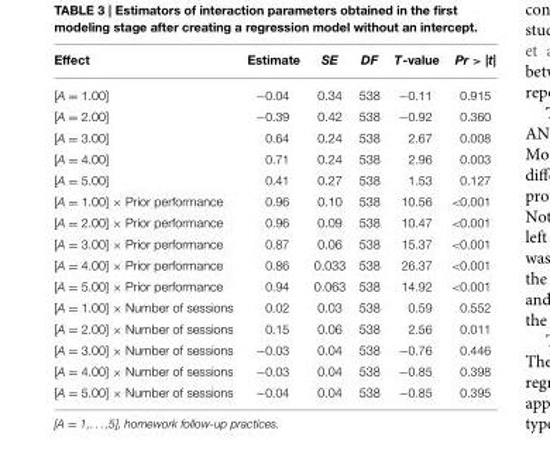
<table><thead><tr><td>Effect</td><td>Estimate</td><td>SE</td><td>DF</td><td>T-value</td><td>Pr &gt; |t|</td></tr></thead><tbody><tr><td>[A = 1.00]</td><td>−0.04</td><td>0.34</td><td>538</td><td>−0.11</td><td>0.915</td></tr><tr><td>[A = 2.00]</td><td>−0.39</td><td>0.42</td><td>538</td><td>−0.92</td><td>0.360</td></tr><tr><td>[A = 3.00]</td><td>0.64</td><td>0.24</td><td>538</td><td>2.67</td><td>0.008</td></tr><tr><td>[A = 4.00]</td><td>0.71</td><td>0.24</td><td>538</td><td>2.96</td><td>0.003</td></tr><tr><td>[A = 5.00]</td><td>0.41</td><td>0.27</td><td>538</td><td>1.53</td><td>0.127</td></tr><tr><td>[A = 1.00] × Prior performance</td><td>0.96</td><td>0.10</td><td>538</td><td>10.56</td><td>&lt;0.001</td></tr><tr><td>[A = 2.00] × Prior performance</td><td>0.96</td><td>0.09</td><td>538</td><td>10.47</td><td>&lt;0.001</td></tr><tr><td>[A = 3.00] × Prior performance</td><td>0.87</td><td>0.06</td><td>538</td><td>15.37</td><td>&lt;0.001</td></tr><tr><td>[A = 4.00] × Prior performance</td><td>0.86</td><td>0.033</td><td>538</td><td>26.37</td><td>&lt;0.001</td></tr><tr><td>[A = 5.00] × Prior performance</td><td>0.94</td><td>0.063</td><td>538</td><td>14.92</td><td>&lt;0.001</td></tr><tr><td>[A = 1.00] × Number of sessions</td><td>0.02</td><td>0.03</td><td>538</td><td>0.59</td><td>0.552</td></tr><tr><td>[A = 2.00] × Number of sessions</td><td>0.15</td><td>0.06</td><td>538</td><td>2.56</td><td>0.011</td></tr><tr><td>[A = 3.00] × Number of sessions</td><td>−0.03</td><td>0.04</td><td>538</td><td>−0.76</td><td>0.446</td></tr><tr><td>[A = 4.00] × Number of sessions</td><td>−0.03</td><td>0.04</td><td>538</td><td>−0.85</td><td>0.398</td></tr><tr><td>[A = 5.00] × Number of sessions</td><td>−0.04</td><td>0.04</td><td>538</td><td>−0.85</td><td>0.395</td></tr></tbody></table>